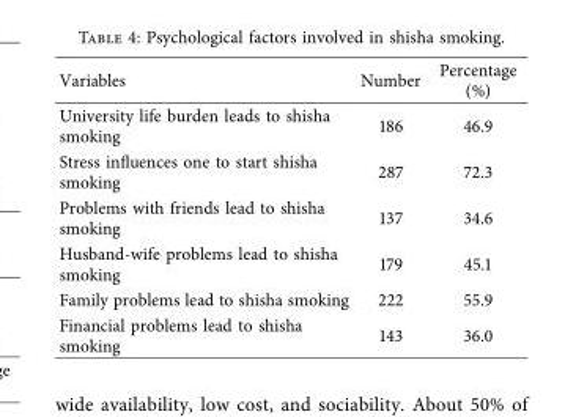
<table><thead><tr><td>Variables</td><td>Number</td><td>Percentage (%)</td></tr></thead><tbody><tr><td>University life burden leads to shisha smoking</td><td>186</td><td>46.9</td></tr><tr><td>Stress infuences one to start shisha smoking</td><td>287</td><td>72.3</td></tr><tr><td>Problems with friends lead to shisha smoking</td><td>137</td><td>34.6</td></tr><tr><td>Husband-wife problems lead to shisha smoking</td><td>179</td><td>45.1</td></tr><tr><td>Family problems lead to shisha smoking</td><td>222</td><td>55.9</td></tr><tr><td>Financial problems lead to shisha smoking</td><td>143</td><td>36.0</td></tr></tbody></table>